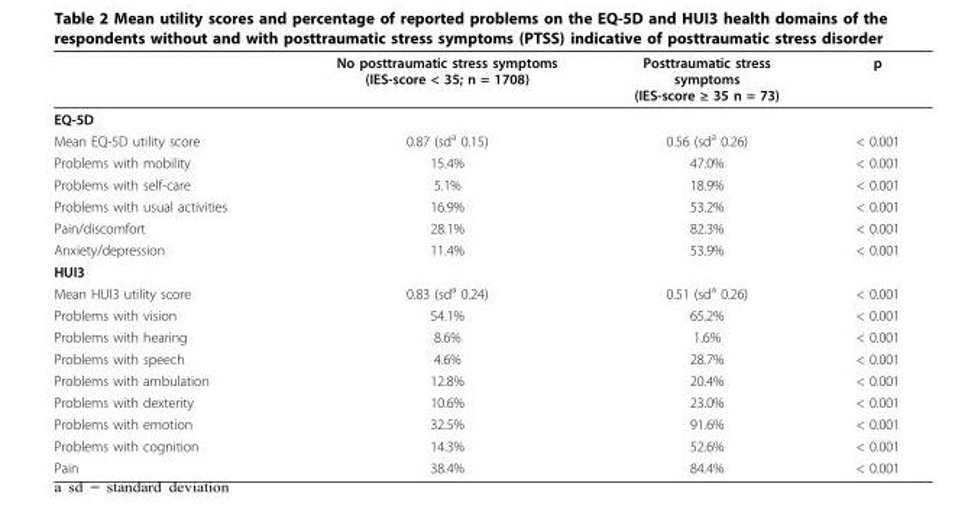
<table><thead><tr><td></td><td>No posttraumatic stress symptoms (IES-score &lt; 35; n = 1708)</td><td>Posttraumatic stress symptoms (IES-score ≥ 35 n = 73)</td><td>p</td></tr></thead><tbody><tr><td colspan="4">EQ-5D</td></tr><tr><td>Mean EQ-5D utility score</td><td>0.87 (sd<sup>a</sup> 0.15)</td><td>0.56 (sd<sup>a</sup> 0.26)</td><td>&lt; 0.001</td></tr><tr><td>Problems with mobility</td><td>15.4%</td><td>47.0%</td><td>&lt; 0.001</td></tr><tr><td>Problems with self-care</td><td>5.1%</td><td>18.9%</td><td>&lt; 0.001</td></tr><tr><td>Problems with usual activities</td><td>16.9%</td><td>53.2%</td><td>&lt; 0.001</td></tr><tr><td>Pain/discomfort</td><td>28.1%</td><td>82.3%</td><td>&lt; 0.001</td></tr><tr><td>Anxiety/depression</td><td>11.4%</td><td>53.9%</td><td>&lt; 0.001</td></tr><tr><td colspan="4">HUI3</td></tr><tr><td>Mean HUI3 utility score</td><td>0.83 (sd<sup>a</sup> 0.24)</td><td>0.51 (sd<sup>a</sup> 0.26)</td><td>&lt; 0.001</td></tr><tr><td>Problems with vision</td><td>54.1%</td><td>65.2%</td><td>&lt; 0.001</td></tr><tr><td>Problems with hearing</td><td>8.6%</td><td>1.6%</td><td>&lt; 0.001</td></tr><tr><td>Problems with speech</td><td>4.6%</td><td>28.7%</td><td>&lt; 0.001</td></tr><tr><td>Problems with ambulation</td><td>12.8%</td><td>20.4%</td><td>&lt; 0.001</td></tr><tr><td>Problems with dexterity</td><td>10.6%</td><td>23.0%</td><td>&lt; 0.001</td></tr><tr><td>Problems with emotion</td><td>32.5%</td><td>91.6%</td><td>&lt; 0.001</td></tr><tr><td>Problems with cognition</td><td>14.3%</td><td>52.6%</td><td>&lt; 0.001</td></tr><tr><td>Pain</td><td>38.4%</td><td>84.4%</td><td>&lt; 0.001</td></tr></tbody></table>